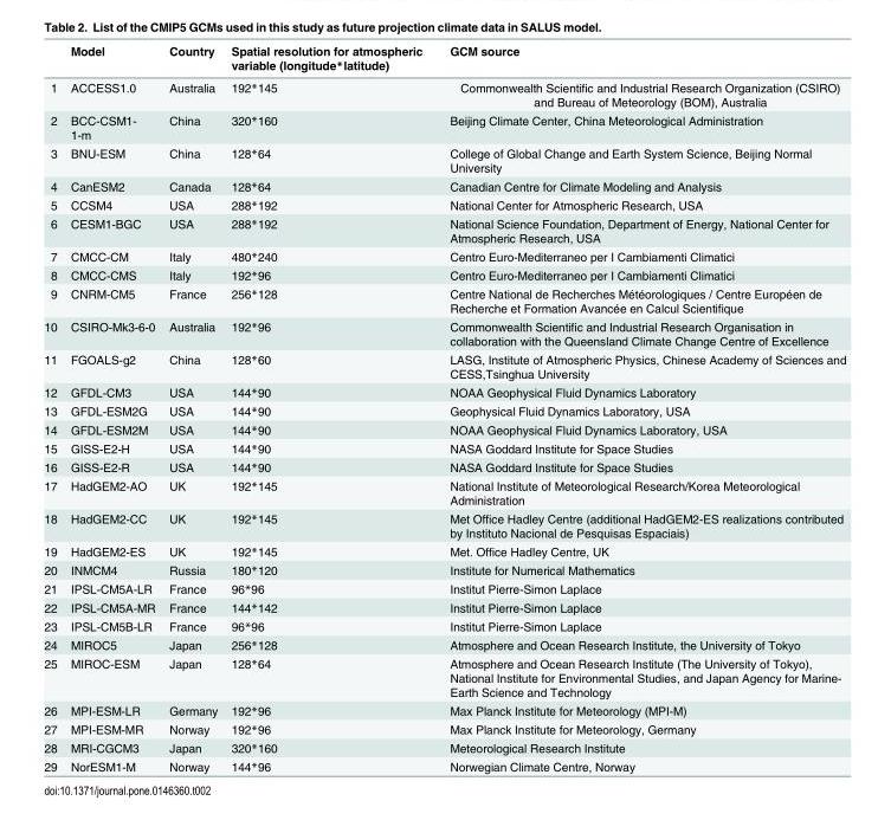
<table><thead><tr><td></td><td>Model</td><td>Country</td><td>Spatial resolution for atmospheric variable (longitude*latitude)</td><td>GCM source</td></tr></thead><tbody><tr><td>1</td><td>ACCESS1.0</td><td>Australia</td><td>192*145</td><td>Commonwealth Scientific and Industrial Research Organization (CSIRO) and Bureau of Meteorology (BOM), Australia</td></tr><tr><td>2</td><td>BCC-CSM1- 1-m</td><td>China</td><td>320*160</td><td>Beijing Climate Center, China Meteorological Administration</td></tr><tr><td>3</td><td>BNU-ESM</td><td>China</td><td>128*64</td><td>College of Global Change and Earth System Science, Beijing Normal University</td></tr><tr><td>4</td><td>CanESM2</td><td>Canada</td><td>128*64</td><td>Canadian Centre for Climate Modeling and Analysis</td></tr><tr><td>5</td><td>CCSM4</td><td>USA</td><td>288*192</td><td>National Center for Atmospheric Research, USA</td></tr><tr><td>6</td><td>CESM1-BGC</td><td>USA</td><td>288*192</td><td>National Science Foundation, Department of Energy, National Center for Atmospheric Research, USA</td></tr><tr><td>7</td><td>CMCC-CM</td><td>Italy</td><td>480*240</td><td>Centro Euro-Mediterraneo per I Cambiamenti Climatici</td></tr><tr><td>8</td><td>CMCC-CMS</td><td>Italy</td><td>192*96</td><td>Centro Euro-Mediterraneo per I Cambiamenti Climatici</td></tr><tr><td>9</td><td>CNRM-CM5</td><td>France</td><td>256*128</td><td>Centre National de Recherches Météorologiques / Centre Européen de Recherche et Formation Avancée en Calcul Scientifique</td></tr><tr><td>10</td><td>CSIRO-Mk3-6-0</td><td>Australia</td><td>192*96</td><td>Commonwealth Scientific and Industrial Research Organisation in collaboration with the Queensland Climate Change Centre of Excellence</td></tr><tr><td>11</td><td>FGOALS-g2</td><td>China</td><td>128*60</td><td>LASG, Institute of Atmospheric Physics, Chinese Academy of Sciences and CESS,Tsinghua University</td></tr><tr><td>12</td><td>GFDL-CM3</td><td>USA</td><td>144*90</td><td>NOAA Geophysical Fluid Dynamics Laboratory</td></tr><tr><td>13</td><td>GFDL-ESM2G</td><td>USA</td><td>144*90</td><td>Geophysical Fluid Dynamics Laboratory, USA</td></tr><tr><td>14</td><td>GFDL-ESM2M</td><td>USA</td><td>144*90</td><td>NOAA Geophysical Fluid Dynamics Laboratory, USA</td></tr><tr><td>15</td><td>GISS-E2-H</td><td>USA</td><td>144*90</td><td>NASA Goddard Institute for Space Studies</td></tr><tr><td>16</td><td>GISS-E2-R</td><td>USA</td><td>144*90</td><td>NASA Goddard Institute for Space Studies</td></tr><tr><td>17</td><td>HadGEM2-AO</td><td>UK</td><td>192*145</td><td>National Institute of Meteorological Research/Korea Meteorological Administration</td></tr><tr><td>18</td><td>HadGEM2-CC</td><td>UK</td><td>192*145</td><td>Met Office Hadley Centre (additional HadGEM2-ES realizations contributed by Instituto Nacional de Pesquisas Espaciais)</td></tr><tr><td>19</td><td>HadGEM2-ES</td><td>UK</td><td>192*145</td><td>Met. Office Hadley Centre, UK</td></tr><tr><td>20</td><td>INMCM4</td><td>Russia</td><td>180*120</td><td>Institute for Numerical Mathematics</td></tr><tr><td>21</td><td>IPSL-CM5A-LR</td><td>France</td><td>96*96</td><td>Institut Pierre-Simon Laplace</td></tr><tr><td>22</td><td>IPSL-CM5A-MR</td><td>France</td><td>144*142</td><td>Institut Pierre-Simon Laplace</td></tr><tr><td>23</td><td>IPSL-CM5B-LR</td><td>France</td><td>96*96</td><td>Institut Pierre-Simon Laplace</td></tr><tr><td>24</td><td>MIROC5</td><td>Japan</td><td>256*128</td><td>Atmosphere and Ocean Research Institute, the University of Tokyo</td></tr><tr><td>25</td><td>MIROC-ESM</td><td>Japan</td><td>128*64</td><td>Atmosphere and Ocean Research Institute (The University of Tokyo), National Institute for Environmental Studies, and Japan Agency for Marine- Earth Science and Technology</td></tr><tr><td>26</td><td>MPI-ESM-LR</td><td>Germany</td><td>192*96</td><td>Max Planck Institute for Meteorology (MPI-M)</td></tr><tr><td>27</td><td>MPI-ESM-MR</td><td>Norway</td><td>192*96</td><td>Max Planck Institute for Meteorology, Germany</td></tr><tr><td>28</td><td>MRI-CGCM3</td><td>Japan</td><td>320*160</td><td>Meteorological Research Institute</td></tr><tr><td>29</td><td>NorESM1-M</td><td>Norway</td><td>144*96</td><td>Norwegian Climate Centre, Norway</td></tr></tbody></table>